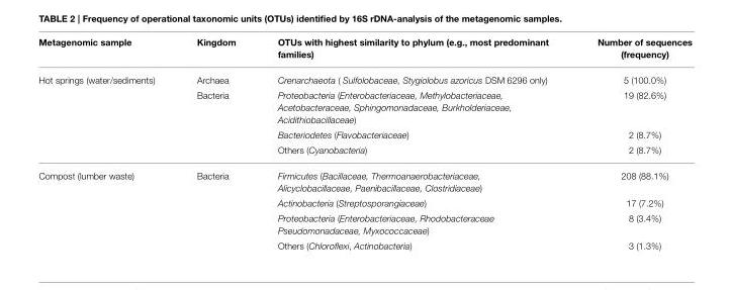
<table><thead><tr><td>Metagenomic sample</td><td>Kingdom</td><td>OTUs with highest similarity to phylum (e.g., most predominant families)</td><td>Number of sequences (frequency)</td></tr></thead><tbody><tr><td rowspan="4">Hot springs (water/sediments)</td><td>Archaea</td><td>Crenarchaeota ( Sulfolobaceae, Stygiolobus azoricus DSM 6296 only)</td><td>5 (100.0%)</td></tr><tr><td>Bacteria</td><td>Proteobacteria (Enterobacteriaceae, Methylobacteriaceae, Acetobacteraceae, Sphingomonadaceae, Burkholderiaceae, Acidithiobacillaceae)</td><td>19 (82.6%)</td></tr><tr><td></td><td>Bacteriodetes (Flavobacteriaceae)</td><td>2 (8.7%)</td></tr><tr><td></td><td>Others (Cyanobacteria)</td><td>2 (8.7%)</td></tr><tr><td rowspan="4">Compost (lumber waste)</td><td>Bacteria</td><td>Firmicutes (Bacillaceae, Thermoanaerobacteriaceae, Alicyclobacillaceae, Paenibacillaceae, Clostridiaceae)</td><td>208 (88.1%)</td></tr><tr><td></td><td>Actinobacteria (Streptosporangiaceae)</td><td>17 (7.2%)</td></tr><tr><td></td><td>Proteobacteria (Enterobacteriaceae, Rhodobacteraceae Pseudomonadaceae, Myxococcaceae)</td><td>8 (3.4%)</td></tr><tr><td></td><td>Others (Chloroflexi, Actinobacteria)</td><td>3 (1.3%)</td></tr></tbody></table>